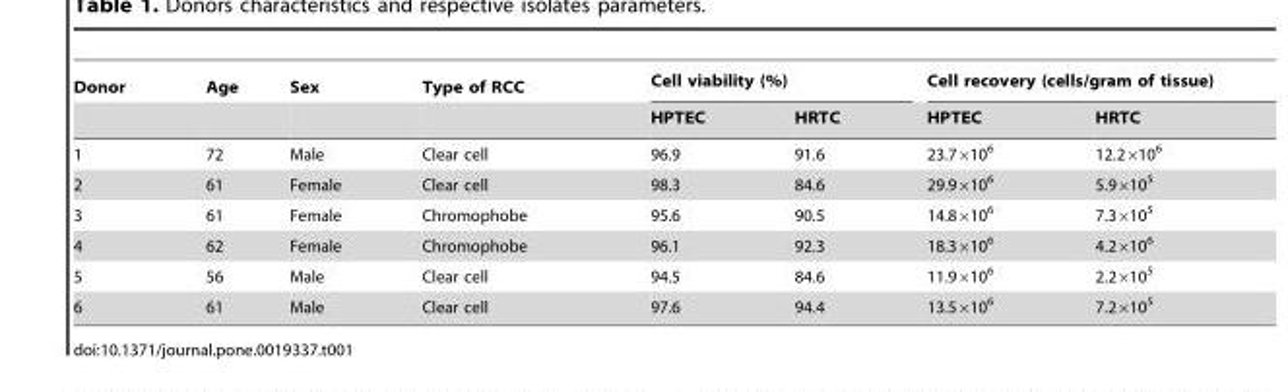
<table><thead><tr><td rowspan="2">Donor</td><td rowspan="2">Age</td><td rowspan="2">Sex</td><td rowspan="2">Type of RCC</td><td colspan="2">Cell viability (%)</td><td colspan="2">Cell recovery (cells/gram of tissue)</td></tr><tr><td>HPTEC</td><td>HRTC</td><td>HPTEC</td><td>HRTC</td></tr></thead><tbody><tr><td>1</td><td>72</td><td>Male</td><td>Clear cell</td><td>96.9</td><td>91.6</td><td>23.7×10<sup>6</sup></td><td>12.2×10<sup>6</sup></td></tr><tr><td>2</td><td>61</td><td>Female</td><td>Clear cell</td><td>98.3</td><td>84.6</td><td>29.9×10<sup>6</sup></td><td>5.9×10<sup>5</sup></td></tr><tr><td>3</td><td>61</td><td>Female</td><td>Chromophobe</td><td>95.6</td><td>90.5</td><td>14.8×10<sup>6</sup></td><td>7.3×10<sup>5</sup></td></tr><tr><td>4</td><td>62</td><td>Female</td><td>Chromophobe</td><td>96.1</td><td>92.3</td><td>18.3×10<sup>6</sup></td><td>4.2×10<sup>6</sup></td></tr><tr><td>5</td><td>56</td><td>Male</td><td>Clear cell</td><td>94.5</td><td>84.6</td><td>11.9×10<sup>6</sup></td><td>2.2×10<sup>5</sup></td></tr><tr><td>6</td><td>61</td><td>Male</td><td>Clear cell</td><td>97.6</td><td>94.4</td><td>13.5×10<sup>6</sup></td><td>7.2×10<sup>5</sup></td></tr></tbody></table>